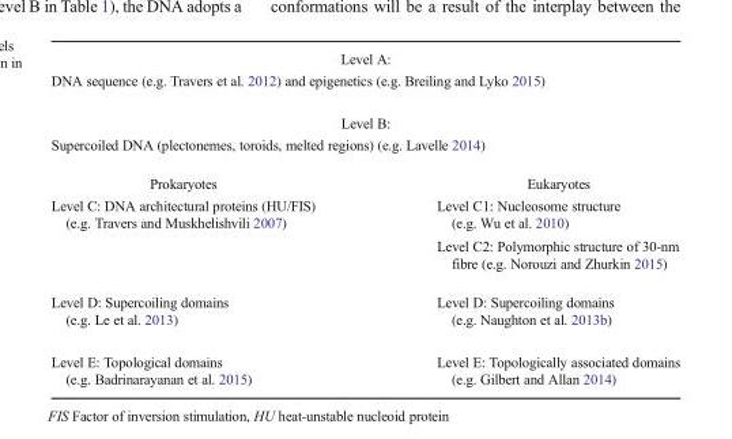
<table><tbody><tr><td colspan="2">Level A:</td></tr><tr><td colspan="2">DNA sequence (e.g. Travers et al. 2012) and epigenetics (e.g. Breiling and Lyko 2015)</td></tr><tr><td colspan="2">Level B:</td></tr><tr><td colspan="2">Supercoiled DNA (plectonemes, toroids, melted regions) (e.g. Lavelle 2014)</td></tr><tr><td>Prokaryotes</td><td>Eukaryotes</td></tr><tr><td rowspan="2">Level C: DNA architectural proteins (HU/FIS) (e.g. Travers and Muskhelishvili 2007)</td><td>Level C1: Nucleosome structure (e.g. Wu et al. 2010)</td></tr><tr><td>Level C2: Polymorphic structure of 30-nm fibre (e.g. Norouzi and Zhurkin 2015)</td></tr><tr><td>Level D: Supercoiling domains (e.g. Le et al. 2013)</td><td>Level D: Supercoiling domains (e.g. Naughton et al. 2013b)</td></tr><tr><td>Level E: Topological domains (e.g. Badrinarayanan et al. 2015)</td><td>Level E: Topologically associated domains (e.g. Gilbert and Allan 2014)</td></tr></tbody></table>